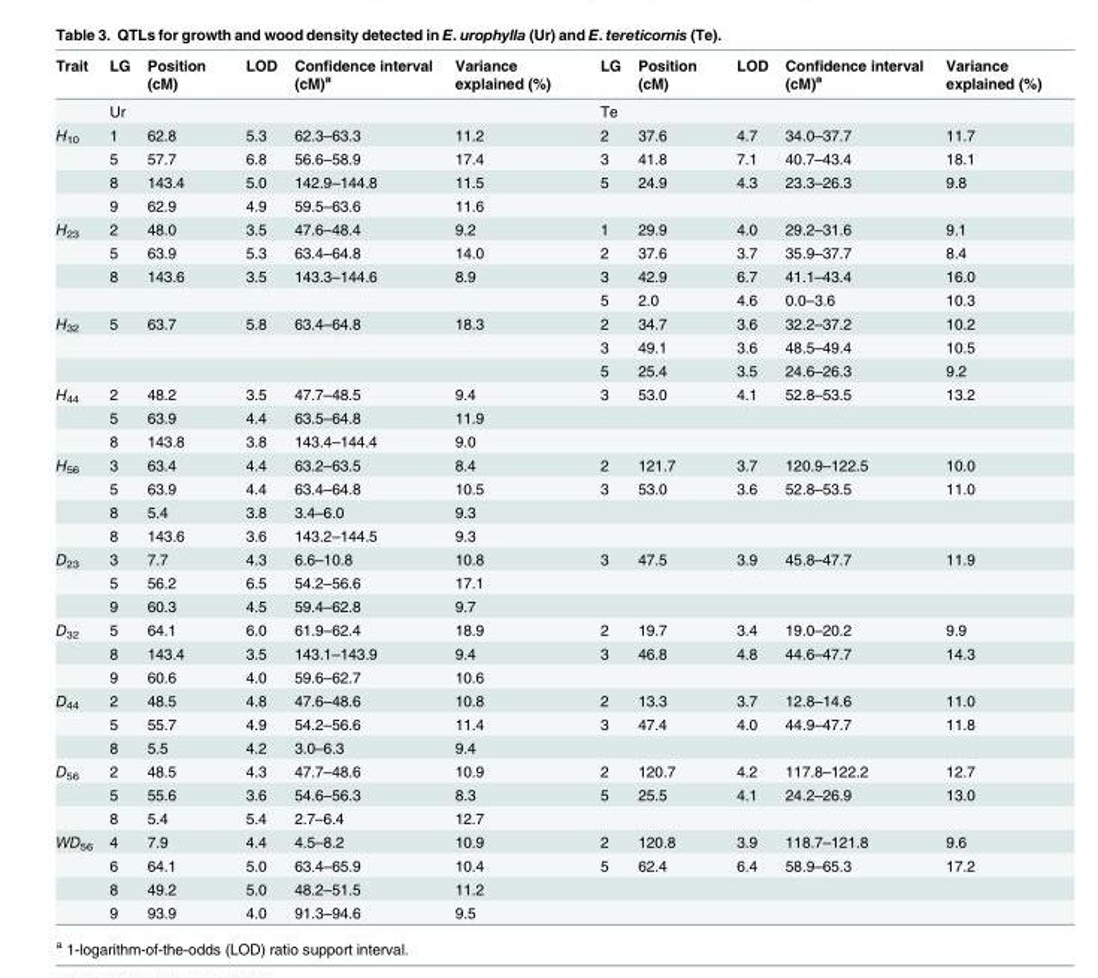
<table><thead><tr><td>Trait</td><td>LG</td><td>Position (cM)</td><td>LOD</td><td>Confidence interval (cM)<sup>a</sup></td><td>Variance explained (%)</td><td>LG</td><td>Position (cM)</td><td>LOD</td><td>Confidence interval (cM)<sup>a</sup></td><td>Variance explained (%)</td></tr></thead><tbody><tr><td></td><td>Ur</td><td></td><td></td><td></td><td></td><td>Te</td><td></td><td></td><td></td><td></td></tr><tr><td rowspan="4">H<sub>10</sub></td><td>1</td><td>62.8</td><td>5.3</td><td>62.3–63.3</td><td>11.2</td><td>2</td><td>37.6</td><td>4.7</td><td>34.0–37.7</td><td>11.7</td></tr><tr><td>5</td><td>57.7</td><td>6.8</td><td>56.6–58.9</td><td>17.4</td><td>3</td><td>41.8</td><td>7.1</td><td>40.7–43.4</td><td>18.1</td></tr><tr><td>8</td><td>143.4</td><td>5.0</td><td>142.9–144.8</td><td>11.5</td><td>5</td><td>24.9</td><td>4.3</td><td>23.3–26.3</td><td>9.8</td></tr><tr><td>9</td><td>62.9</td><td>4.9</td><td>59.5–63.6</td><td>11.6</td><td></td><td></td><td></td><td></td><td></td></tr><tr><td rowspan="4">H<sub>23</sub></td><td>2</td><td>48.0</td><td>3.5</td><td>47.6–48.4</td><td>9.2</td><td>1</td><td>29.9</td><td>4.0</td><td>29.2–31.6</td><td>9.1</td></tr><tr><td>5</td><td>63.9</td><td>5.3</td><td>63.4–64.8</td><td>14.0</td><td>2</td><td>37.6</td><td>3.7</td><td>35.9–37.7</td><td>8.4</td></tr><tr><td>8</td><td>143.6</td><td>3.5</td><td>143.3–144.6</td><td>8.9</td><td>3</td><td>42.9</td><td>6.7</td><td>41.1–43.4</td><td>16.0</td></tr><tr><td></td><td></td><td></td><td></td><td></td><td>5</td><td>2.0</td><td>4.6</td><td>0.0–3.6</td><td>10.3</td></tr><tr><td rowspan="3">H<sub>32</sub></td><td>5</td><td>63.7</td><td>5.8</td><td>63.4–64.8</td><td>18.3</td><td>2</td><td>34.7</td><td>3.6</td><td>32.2–37.2</td><td>10.2</td></tr><tr><td></td><td></td><td></td><td></td><td></td><td>3</td><td>49.1</td><td>3.6</td><td>48.5–49.4</td><td>10.5</td></tr><tr><td></td><td></td><td></td><td></td><td></td><td>5</td><td>25.4</td><td>3.5</td><td>24.6–26.3</td><td>9.2</td></tr><tr><td rowspan="3">H<sub>44</sub></td><td>2</td><td>48.2</td><td>3.5</td><td>47.7–48.5</td><td>9.4</td><td>3</td><td>53.0</td><td>4.1</td><td>52.8–53.5</td><td>13.2</td></tr><tr><td>5</td><td>63.9</td><td>4.4</td><td>63.5–64.8</td><td>11.9</td><td></td><td></td><td></td><td></td><td></td></tr><tr><td>8</td><td>143.8</td><td>3.8</td><td>143.4–144.4</td><td>9.0</td><td></td><td></td><td></td><td></td><td></td></tr><tr><td rowspan="4">H<sub>56</sub></td><td>3</td><td>63.4</td><td>4.4</td><td>63.2–63.5</td><td>8.4</td><td>2</td><td>121.7</td><td>3.7</td><td>120.9–122.5</td><td>10.0</td></tr><tr><td>5</td><td>63.9</td><td>4.4</td><td>63.4–64.8</td><td>10.5</td><td>3</td><td>53.0</td><td>3.6</td><td>52.8–53.5</td><td>11.0</td></tr><tr><td>8</td><td>5.4</td><td>3.8</td><td>3.4–6.0</td><td>9.3</td><td></td><td></td><td></td><td></td><td></td></tr><tr><td>8</td><td>143.6</td><td>3.6</td><td>143.2–144.5</td><td>9.3</td><td></td><td></td><td></td><td></td><td></td></tr><tr><td rowspan="3">D<sub>23</sub></td><td>3</td><td>7.7</td><td>4.3</td><td>6.6–10.8</td><td>10.8</td><td>3</td><td>47.5</td><td>3.9</td><td>45.8–47.7</td><td>11.9</td></tr><tr><td>5</td><td>56.2</td><td>6.5</td><td>54.2–56.6</td><td>17.1</td><td></td><td></td><td></td><td></td><td></td></tr><tr><td>9</td><td>60.3</td><td>4.5</td><td>59.4–62.8</td><td>9.7</td><td></td><td></td><td></td><td></td><td></td></tr><tr><td rowspan="3">D<sub>32</sub></td><td>5</td><td>64.1</td><td>6.0</td><td>61.9–62.4</td><td>18.9</td><td>2</td><td>19.7</td><td>3.4</td><td>19.0–20.2</td><td>9.9</td></tr><tr><td>8</td><td>143.4</td><td>3.5</td><td>143.1–143.9</td><td>9.4</td><td>3</td><td>46.8</td><td>4.8</td><td>44.6–47.7</td><td>14.3</td></tr><tr><td>9</td><td>60.6</td><td>4.0</td><td>59.6–62.7</td><td>10.6</td><td></td><td></td><td></td><td></td><td></td></tr><tr><td rowspan="3">D<sub>44</sub></td><td>2</td><td>48.5</td><td>4.8</td><td>47.6–48.6</td><td>10.8</td><td>2</td><td>13.3</td><td>3.7</td><td>12.8–14.6</td><td>11.0</td></tr><tr><td>5</td><td>55.7</td><td>4.9</td><td>54.2–56.6</td><td>11.4</td><td>3</td><td>47.4</td><td>4.0</td><td>44.9–47.7</td><td>11.8</td></tr><tr><td>8</td><td>5.5</td><td>4.2</td><td>3.0–6.3</td><td>9.4</td><td></td><td></td><td></td><td></td><td></td></tr><tr><td rowspan="3">D<sub>56</sub></td><td>2</td><td>48.5</td><td>4.3</td><td>47.7–48.6</td><td>10.9</td><td>2</td><td>120.7</td><td>4.2</td><td>117.8–122.2</td><td>12.7</td></tr><tr><td>5</td><td>55.6</td><td>3.6</td><td>54.6–56.3</td><td>8.3</td><td>5</td><td>25.5</td><td>4.1</td><td>24.2–26.9</td><td>13.0</td></tr><tr><td>8</td><td>5.4</td><td>5.4</td><td>2.7–6.4</td><td>12.7</td><td></td><td></td><td></td><td></td><td></td></tr><tr><td rowspan="4">WD<sub>56</sub></td><td>4</td><td>7.9</td><td>4.4</td><td>4.5–8.2</td><td>10.9</td><td>2</td><td>120.8</td><td>3.9</td><td>118.7–121.8</td><td>9.6</td></tr><tr><td>6</td><td>64.1</td><td>5.0</td><td>63.4–65.9</td><td>10.4</td><td>5</td><td>62.4</td><td>6.4</td><td>58.9–65.3</td><td>17.2</td></tr><tr><td>8</td><td>49.2</td><td>5.0</td><td>48.2–51.5</td><td>11.2</td><td></td><td></td><td></td><td></td><td></td></tr><tr><td>9</td><td>93.9</td><td>4.0</td><td>91.3–94.6</td><td>9.5</td><td></td><td></td><td></td><td></td><td></td></tr></tbody></table>